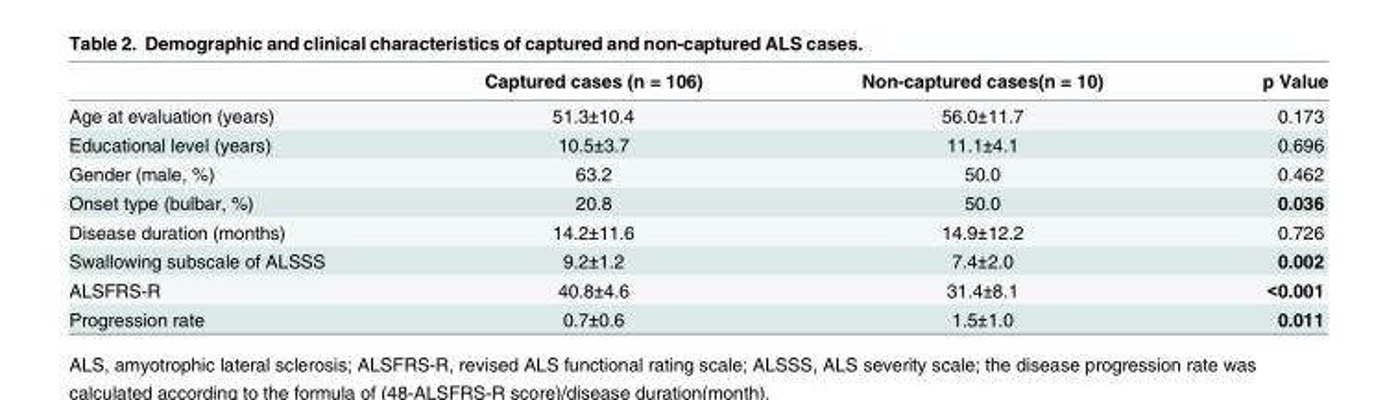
<table><thead><tr><td></td><td>Captured cases (n = 106)</td><td>Non-captured cases(n = 10)</td><td>p Value</td></tr></thead><tbody><tr><td>Age at evaluation (years)</td><td>51.3±10.4</td><td>56.0±11.7</td><td>0.173</td></tr><tr><td>Educational level (years)</td><td>10.5±3.7</td><td>11.1±4.1</td><td>0.696</td></tr><tr><td>Gender (male, %)</td><td>63.2</td><td>50.0</td><td>0.462</td></tr><tr><td>Onset type (bulbar, %)</td><td>20.8</td><td>50.0</td><td>0.036</td></tr><tr><td>Disease duration (months)</td><td>14.2±11.6</td><td>14.9±12.2</td><td>0.726</td></tr><tr><td>Swallowing subscale of ALSSS</td><td>9.2±1.2</td><td>7.4±2.0</td><td>0.002</td></tr><tr><td>ALSFRS-R</td><td>40.8±4.6</td><td>31.4±8.1</td><td>&lt;0.001</td></tr><tr><td>Progression rate</td><td>0.7±0.6</td><td>1.5±1.0</td><td>0.011</td></tr></tbody></table>